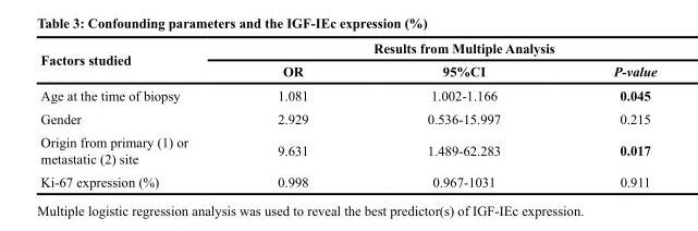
<table><thead><tr><td rowspan="2">Factors studied</td><td colspan="3">Results from Multiple Analysis</td></tr><tr><td>OR</td><td>95%CI</td><td>P-value</td></tr></thead><tbody><tr><td>Age at the time of biopsy</td><td>1.081</td><td>1.002-1.166</td><td>0.045</td></tr><tr><td>Gender</td><td>2.929</td><td>0.536-15.997</td><td>0.215</td></tr><tr><td>Origin from primary (1) or metastatic (2) site</td><td>9.631</td><td>1.489-62.283</td><td>0.017</td></tr><tr><td>Ki-67 expression (%)</td><td>0.998</td><td>0.967-1031</td><td>0.911</td></tr></tbody></table>